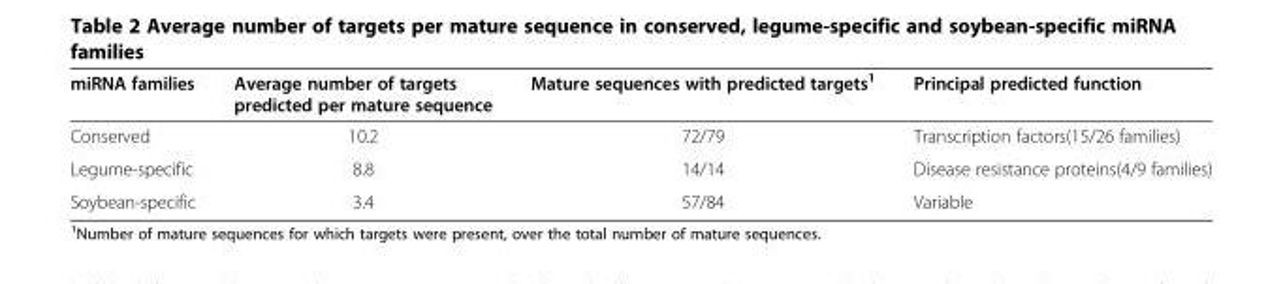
<table><thead><tr><td>miRNA families</td><td>Average number of targets predicted per mature sequence</td><td>Mature sequences with predicted targets<sup>1</sup></td><td>Principal predicted function</td></tr></thead><tbody><tr><td>Conserved</td><td>10.2</td><td>72/79</td><td>Transcription factors(15/26 families)</td></tr><tr><td>Legume-specific</td><td>8.8</td><td>14/14</td><td>Disease resistance proteins(4/9 families)</td></tr><tr><td>Soybean-specific</td><td>3.4</td><td>57/84</td><td>Variable</td></tr></tbody></table>